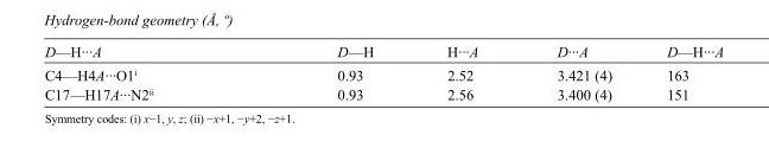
<table><tbody><tr><td>D—H···A</td><td>D—H</td><td>H···A</td><td>D···A</td><td>D—H···A</td></tr><tr><td>C4—H4A···O1<sup>i</sup></td><td>0.93</td><td>2.52</td><td>3.421 (4)</td><td>163</td></tr><tr><td>C17—H17A···N2<sup>ii</sup></td><td>0.93</td><td>2.56</td><td>3.400 (4)</td><td>151</td></tr></tbody></table>